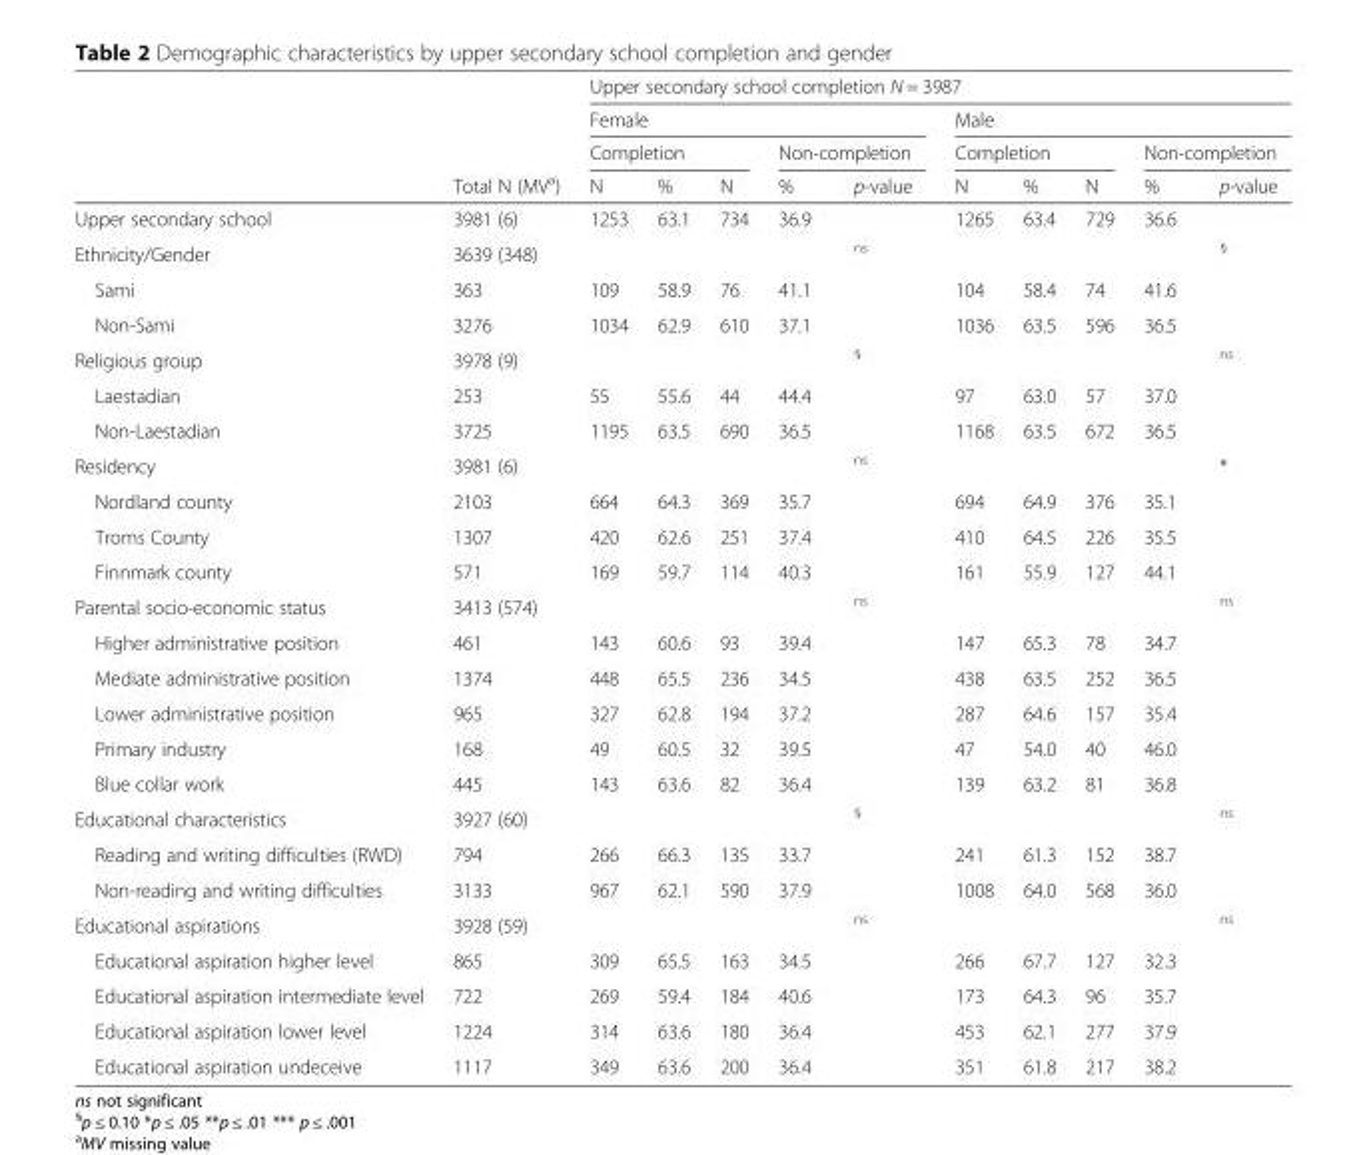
<table><thead><tr><td rowspan="4"></td><td rowspan="4">Total N (MV<sup>a</sup>)</td><td colspan="10">Upper secondary school completion N = 3987</td></tr><tr><td colspan="5">Female</td><td colspan="5">Male</td></tr><tr><td colspan="3">Completion</td><td colspan="2">Non-completion</td><td colspan="3">Completion</td><td colspan="2">Non-completion</td></tr><tr><td>N</td><td>%</td><td>N</td><td>%</td><td>p-value</td><td>N</td><td>%</td><td>N</td><td>%</td><td>p-value</td></tr></thead><tbody><tr><td>Upper secondary school</td><td>3981 (6)</td><td>1253</td><td>63.1</td><td>734</td><td>36.9</td><td></td><td>1265</td><td>63.4</td><td>729</td><td>36.6</td><td></td></tr><tr><td>Ethnicity/Gender</td><td>3639 (348)</td><td></td><td></td><td></td><td></td><td><sup>ns</sup></td><td></td><td></td><td></td><td></td><td><sup>§</sup></td></tr><tr><td>Sami</td><td>363</td><td>109</td><td>58.9</td><td>76</td><td>41.1</td><td></td><td>104</td><td>58.4</td><td>74</td><td>41.6</td><td></td></tr><tr><td>Non-Sami</td><td>3276</td><td>1034</td><td>62.9</td><td>610</td><td>37.1</td><td></td><td>1036</td><td>63.5</td><td>596</td><td>36.5</td><td></td></tr><tr><td>Religious group</td><td>3978 (9)</td><td></td><td></td><td></td><td></td><td><sup>§</sup></td><td></td><td></td><td></td><td></td><td><sup>ns</sup></td></tr><tr><td>Laestadian</td><td>253</td><td>55</td><td>55.6</td><td>44</td><td>44.4</td><td></td><td>97</td><td>63.0</td><td>57</td><td>37.0</td><td></td></tr><tr><td>Non-Laestadian</td><td>3725</td><td>1195</td><td>63.5</td><td>690</td><td>36.5</td><td></td><td>1168</td><td>63.5</td><td>672</td><td>36.5</td><td></td></tr><tr><td>Residency</td><td>3981 (6)</td><td></td><td></td><td></td><td></td><td><sup>ns</sup></td><td></td><td></td><td></td><td></td><td>*</td></tr><tr><td>Nordland county</td><td>2103</td><td>664</td><td>64.3</td><td>369</td><td>35.7</td><td></td><td>694</td><td>64.9</td><td>376</td><td>35.1</td><td></td></tr><tr><td>Troms County</td><td>1307</td><td>420</td><td>62.6</td><td>251</td><td>37.4</td><td></td><td>410</td><td>64.5</td><td>226</td><td>35.5</td><td></td></tr><tr><td>Finnmark county</td><td>571</td><td>169</td><td>59.7</td><td>114</td><td>40.3</td><td></td><td>161</td><td>55.9</td><td>127</td><td>44.1</td><td></td></tr><tr><td>Parental socio-economic status</td><td>3413 (574)</td><td></td><td></td><td></td><td></td><td><sup>ns</sup></td><td></td><td></td><td></td><td></td><td><sup>ns</sup></td></tr><tr><td>Higher administrative position</td><td>461</td><td>143</td><td>60.6</td><td>93</td><td>39.4</td><td></td><td>147</td><td>65.3</td><td>78</td><td>34.7</td><td></td></tr><tr><td>Mediate administrative position</td><td>1374</td><td>448</td><td>65.5</td><td>236</td><td>34.5</td><td></td><td>438</td><td>63.5</td><td>252</td><td>36.5</td><td></td></tr><tr><td>Lower administrative position</td><td>965</td><td>327</td><td>62.8</td><td>194</td><td>37.2</td><td></td><td>287</td><td>64.6</td><td>157</td><td>35.4</td><td></td></tr><tr><td>Primary industry</td><td>168</td><td>49</td><td>60.5</td><td>32</td><td>39.5</td><td></td><td>47</td><td>54.0</td><td>40</td><td>46.0</td><td></td></tr><tr><td>Blue collar work</td><td>445</td><td>143</td><td>63.6</td><td>82</td><td>36.4</td><td></td><td>139</td><td>63.2</td><td>81</td><td>36.8</td><td></td></tr><tr><td>Educational characteristics</td><td>3927 (60)</td><td></td><td></td><td></td><td></td><td><sup>§</sup></td><td></td><td></td><td></td><td></td><td><sup>ns</sup></td></tr><tr><td>Reading and writing difficulties (RWD)</td><td>794</td><td>266</td><td>66.3</td><td>135</td><td>33.7</td><td></td><td>241</td><td>61.3</td><td>152</td><td>38.7</td><td></td></tr><tr><td>Non-reading and writing difficulties</td><td>3133</td><td>967</td><td>62.1</td><td>590</td><td>37.9</td><td></td><td>1008</td><td>64.0</td><td>568</td><td>36.0</td><td></td></tr><tr><td>Educational aspirations</td><td>3928 (59)</td><td></td><td></td><td></td><td></td><td><sup>ns</sup></td><td></td><td></td><td></td><td></td><td><sup>ns</sup></td></tr><tr><td>Educational aspiration higher level</td><td>865</td><td>309</td><td>65.5</td><td>163</td><td>34.5</td><td></td><td>266</td><td>67.7</td><td>127</td><td>32.3</td><td></td></tr><tr><td>Educational aspiration intermediate level</td><td>722</td><td>269</td><td>59.4</td><td>184</td><td>40.6</td><td></td><td>173</td><td>64.3</td><td>96</td><td>35.7</td><td></td></tr><tr><td>Educational aspiration lower level</td><td>1224</td><td>314</td><td>63.6</td><td>180</td><td>36.4</td><td></td><td>453</td><td>62.1</td><td>277</td><td>37.9</td><td></td></tr><tr><td>Educational aspiration undeceive</td><td>1117</td><td>349</td><td>63.6</td><td>200</td><td>36.4</td><td></td><td>351</td><td>61.8</td><td>217</td><td>38.2</td><td></td></tr></tbody></table>